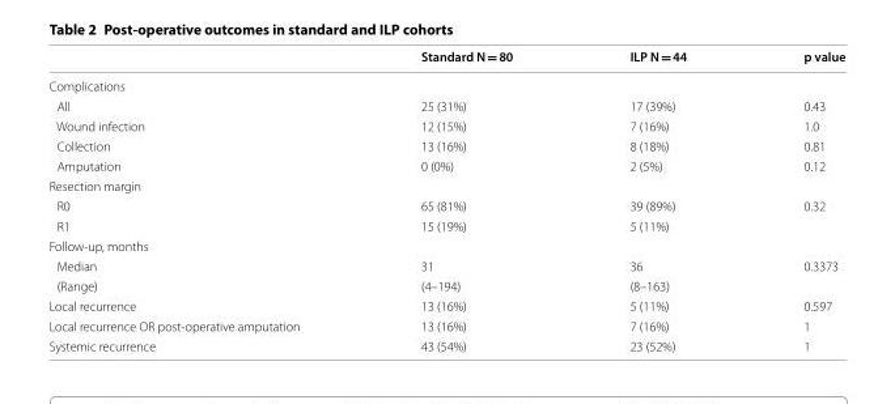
<table><thead><tr><td></td><td>Standard N = 80</td><td>ILP N = 44</td><td>p value</td></tr></thead><tbody><tr><td colspan="4">Complications</td></tr><tr><td>All</td><td>25 (31%)</td><td>17 (39%)</td><td>0.43</td></tr><tr><td>Wound infection</td><td>12 (15%)</td><td>7 (16%)</td><td>1.0</td></tr><tr><td>Collection</td><td>13 (16%)</td><td>8 (18%)</td><td>0.81</td></tr><tr><td>Amputation</td><td>0 (0%)</td><td>2 (5%)</td><td>0.12</td></tr><tr><td colspan="4">Resection margin</td></tr><tr><td>R0</td><td>65 (81%)</td><td>39 (89%)</td><td rowspan="2">0.32</td></tr><tr><td>R1</td><td>15 (19%)</td><td>5 (11%)</td></tr><tr><td colspan="4">Follow‑up, months</td></tr><tr><td>Median</td><td>31</td><td>36</td><td rowspan="2">0.3373</td></tr><tr><td>(Range)</td><td>(4–194)</td><td>(8–163)</td></tr><tr><td>Local recurrence</td><td>13 (16%)</td><td>5 (11%)</td><td>0.597</td></tr><tr><td>Local recurrence OR post‑operative amputation</td><td>13 (16%)</td><td>7 (16%)</td><td>1</td></tr><tr><td>Systemic recurrence</td><td>43 (54%)</td><td>23 (52%)</td><td>1</td></tr></tbody></table>